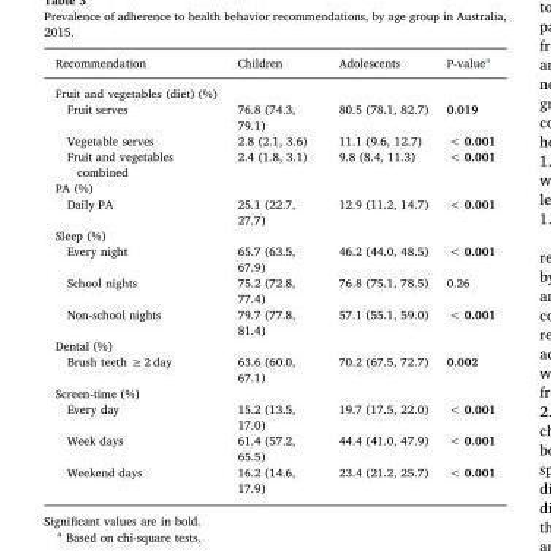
<table><thead><tr><td>Recommendation</td><td>Children</td><td>Adolescents</td><td>P-value<sup>a</sup></td></tr></thead><tbody><tr><td colspan="4">Fruit and vegetables (diet) (%)</td></tr><tr><td>Fruit serves</td><td>76.8 (74.3, 79.1)</td><td>80.5 (78.1, 82.7)</td><td>0.019</td></tr><tr><td>Vegetable serves</td><td>2.8 (2.1, 3.6)</td><td>11.1 (9.6, 12.7)</td><td>&lt; 0.001</td></tr><tr><td>Fruit and vegetables combined</td><td>2.4 (1.8, 3.1)</td><td>9.8 (8.4, 11.3)</td><td>&lt; 0.001</td></tr><tr><td colspan="4">PA (%)</td></tr><tr><td>Daily PA</td><td>25.1 (22.7, 27.7)</td><td>12.9 (11.2, 14.7)</td><td>&lt; 0.001</td></tr><tr><td colspan="4">Sleep (%)</td></tr><tr><td>Every night</td><td>65.7 (63.5, 67.9)</td><td>46.2 (44.0, 48.5)</td><td>&lt; 0.001</td></tr><tr><td>School nights</td><td>75.2 (72.8, 77.4)</td><td>76.8 (75.1, 78.5)</td><td>0.26</td></tr><tr><td>Non-school nights</td><td>79.7 (77.8, 81.4)</td><td>57.1 (55.1, 59.0)</td><td>&lt; 0.001</td></tr><tr><td colspan="4">Dental (%)</td></tr><tr><td>Brush teeth ≥2 day</td><td>63.6 (60.0, 67.1)</td><td>70.2 (67.5, 72.7)</td><td>0.002</td></tr><tr><td colspan="4">Screen-time (%)</td></tr><tr><td>Every day</td><td>15.2 (13.5, 17.0)</td><td>19.7 (17.5, 22.0)</td><td>&lt; 0.001</td></tr><tr><td>Week days</td><td>61.4 (57.2, 65.5)</td><td>44.4 (41.0, 47.9)</td><td>&lt; 0.001</td></tr><tr><td>Weekend days</td><td>16.2 (14.6, 17.9)</td><td>23.4 (21.2, 25.7)</td><td>&lt; 0.001</td></tr></tbody></table>